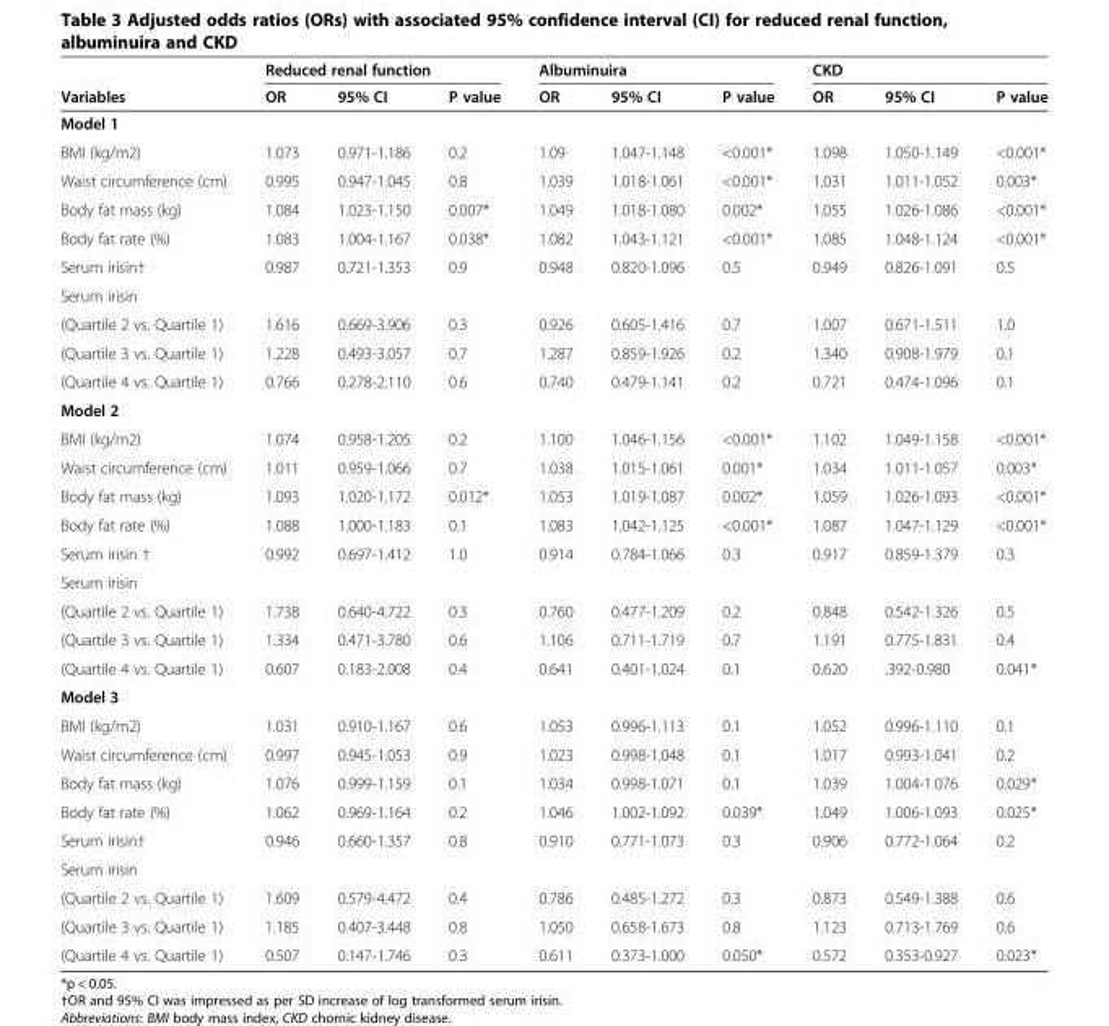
<table><thead><tr><td rowspan="2">Variables</td><td colspan="3">Reduced renal function</td><td colspan="3">Albuminuira</td><td colspan="3">CKD</td></tr><tr><td>OR</td><td>95% CI</td><td>P value</td><td>OR</td><td>95% CI</td><td>P value</td><td>OR</td><td>95% CI</td><td>P value</td></tr></thead><tbody><tr><td colspan="10">Model 1</td></tr><tr><td>BMI (kg/m2)</td><td>1.073</td><td>0.971-1.186</td><td>0.2</td><td>1.09</td><td>1.047-1.148</td><td>&lt;0.001*</td><td>1.098</td><td>1.050-1.149</td><td>&lt;0.001*</td></tr><tr><td>Waist circumference (cm)</td><td>0.995</td><td>0.947-1.045</td><td>0.8</td><td>1.039</td><td>1.018-1.061</td><td>&lt;0.001*</td><td>1.031</td><td>1.011-1.052</td><td>0.003*</td></tr><tr><td>Body fat mass (kg)</td><td>1.084</td><td>1.023-1.150</td><td>0.007*</td><td>1.049</td><td>1.018-1.080</td><td>0.002*</td><td>1.055</td><td>1.026-1.086</td><td>&lt;0.001*</td></tr><tr><td>Body fat rate (%)</td><td>1.083</td><td>1.004-1.167</td><td>0.038*</td><td>1.082</td><td>1.043-1.121</td><td>&lt;0.001*</td><td>1.085</td><td>1.048-1.124</td><td>&lt;0.001*</td></tr><tr><td>Serum irisin†</td><td>0.987</td><td>0.721-1.353</td><td>0.9</td><td>0.948</td><td>0.820-1.096</td><td>0.5</td><td>0.949</td><td>0.826-1.091</td><td>0.5</td></tr><tr><td colspan="10">Serum irisin</td></tr><tr><td>(Quartile 2 vs. Quartile 1)</td><td>1.616</td><td>0.669-3.906</td><td>0.3</td><td>0.926</td><td>0.605-1.416</td><td>0.7</td><td>1.007</td><td>0.671-1.511</td><td>1.0</td></tr><tr><td>(Quartile 3 vs. Quartile 1)</td><td>1.228</td><td>0.493-3.057</td><td>0.7</td><td>1.287</td><td>0.859-1.926</td><td>0.2</td><td>1.340</td><td>0.908-1.979</td><td>0.1</td></tr><tr><td>(Quartile 4 vs. Quartile 1)</td><td>0.766</td><td>0.278-2.110</td><td>0.6</td><td>0.740</td><td>0.479-1.141</td><td>0.2</td><td>0.721</td><td>0.474-1.096</td><td>0.1</td></tr><tr><td colspan="10">Model 2</td></tr><tr><td>BMI (kg/m2)</td><td>1.074</td><td>0.958-1.205</td><td>0.2</td><td>1.100</td><td>1.046-1.156</td><td>&lt;0.001*</td><td>1.102</td><td>1.049-1.158</td><td>&lt;0.001*</td></tr><tr><td>Waist circumference (cm)</td><td>1.011</td><td>0.959-1.066</td><td>0.7</td><td>1.038</td><td>1.015-1.061</td><td>0.001*</td><td>1.034</td><td>1.011-1.057</td><td>0.003*</td></tr><tr><td>Body fat mass (kg)</td><td>1.093</td><td>1.020-1.172</td><td>0.012*</td><td>1.053</td><td>1.019-1.087</td><td>0.002*</td><td>1.059</td><td>1.026-1.093</td><td>&lt;0.001*</td></tr><tr><td>Body fat rate (%)</td><td>1.088</td><td>1.000-1.183</td><td>0.1</td><td>1.083</td><td>1.042-1.125</td><td>&lt;0.001*</td><td>1.087</td><td>1.047-1.129</td><td>&lt;0.001*</td></tr><tr><td>Serum irisin †</td><td>0.992</td><td>0.697-1.412</td><td>1.0</td><td>0.914</td><td>0.784-1.066</td><td>0.3</td><td>0.917</td><td>0.859-1.379</td><td>0.3</td></tr><tr><td colspan="10">Serum irisin</td></tr><tr><td>(Quartile 2 vs. Quartile 1)</td><td>1.738</td><td>0.640-4.722</td><td>0.3</td><td>0.760</td><td>0.477-1.209</td><td>0.2</td><td>0.848</td><td>0.542-1.326</td><td>0.5</td></tr><tr><td>(Quartile 3 vs. Quartile 1)</td><td>1.334</td><td>0.471-3.780</td><td>0.6</td><td>1.106</td><td>0.711-1.719</td><td>0.7</td><td>1.191</td><td>0.775-1.831</td><td>0.4</td></tr><tr><td>(Quartile 4 vs. Quartile 1)</td><td>0.607</td><td>0.183-2.008</td><td>0.4</td><td>0.641</td><td>0.401-1.024</td><td>0.1</td><td>0.620</td><td>.392-0.980</td><td>0.041*</td></tr><tr><td colspan="10">Model 3</td></tr><tr><td>BMI (kg/m2)</td><td>1.031</td><td>0.910-1.167</td><td>0.6</td><td>1.053</td><td>0.996-1.113</td><td>0.1</td><td>1.052</td><td>0.996-1.110</td><td>0.1</td></tr><tr><td>Waist circumference (cm)</td><td>0.997</td><td>0.945-1.053</td><td>0.9</td><td>1.023</td><td>0.998-1.048</td><td>0.1</td><td>1.017</td><td>0.993-1.041</td><td>0.2</td></tr><tr><td>Body fat mass (kg)</td><td>1.076</td><td>0.999-1.159</td><td>0.1</td><td>1.034</td><td>0.998-1.071</td><td>0.1</td><td>1.039</td><td>1.004-1.076</td><td>0.029*</td></tr><tr><td>Body fat rate (%)</td><td>1.062</td><td>0.969-1.164</td><td>0.2</td><td>1.046</td><td>1.002-1.092</td><td>0.039*</td><td>1.049</td><td>1.006-1.093</td><td>0.025*</td></tr><tr><td>Serum irisin†</td><td>0.946</td><td>0.660-1.357</td><td>0.8</td><td>0.910</td><td>0.771-1.073</td><td>0.3</td><td>0.906</td><td>0.772-1.064</td><td>0.2</td></tr><tr><td colspan="10">Serum irisin</td></tr><tr><td>(Quartile 2 vs. Quartile 1)</td><td>1.609</td><td>0.579-4.472</td><td>0.4</td><td>0.786</td><td>0.485-1.272</td><td>0.3</td><td>0.873</td><td>0.549-1.388</td><td>0.6</td></tr><tr><td>(Quartile 3 vs. Quartile 1)</td><td>1.185</td><td>0.407-3.448</td><td>0.8</td><td>1.050</td><td>0.658-1.673</td><td>0.8</td><td>1.123</td><td>0.713-1.769</td><td>0.6</td></tr><tr><td>(Quartile 4 vs. Quartile 1)</td><td>0.507</td><td>0.147-1.746</td><td>0.3</td><td>0.611</td><td>0.373-1.000</td><td>0.050*</td><td>0.572</td><td>0.353-0.927</td><td>0.023*</td></tr></tbody></table>